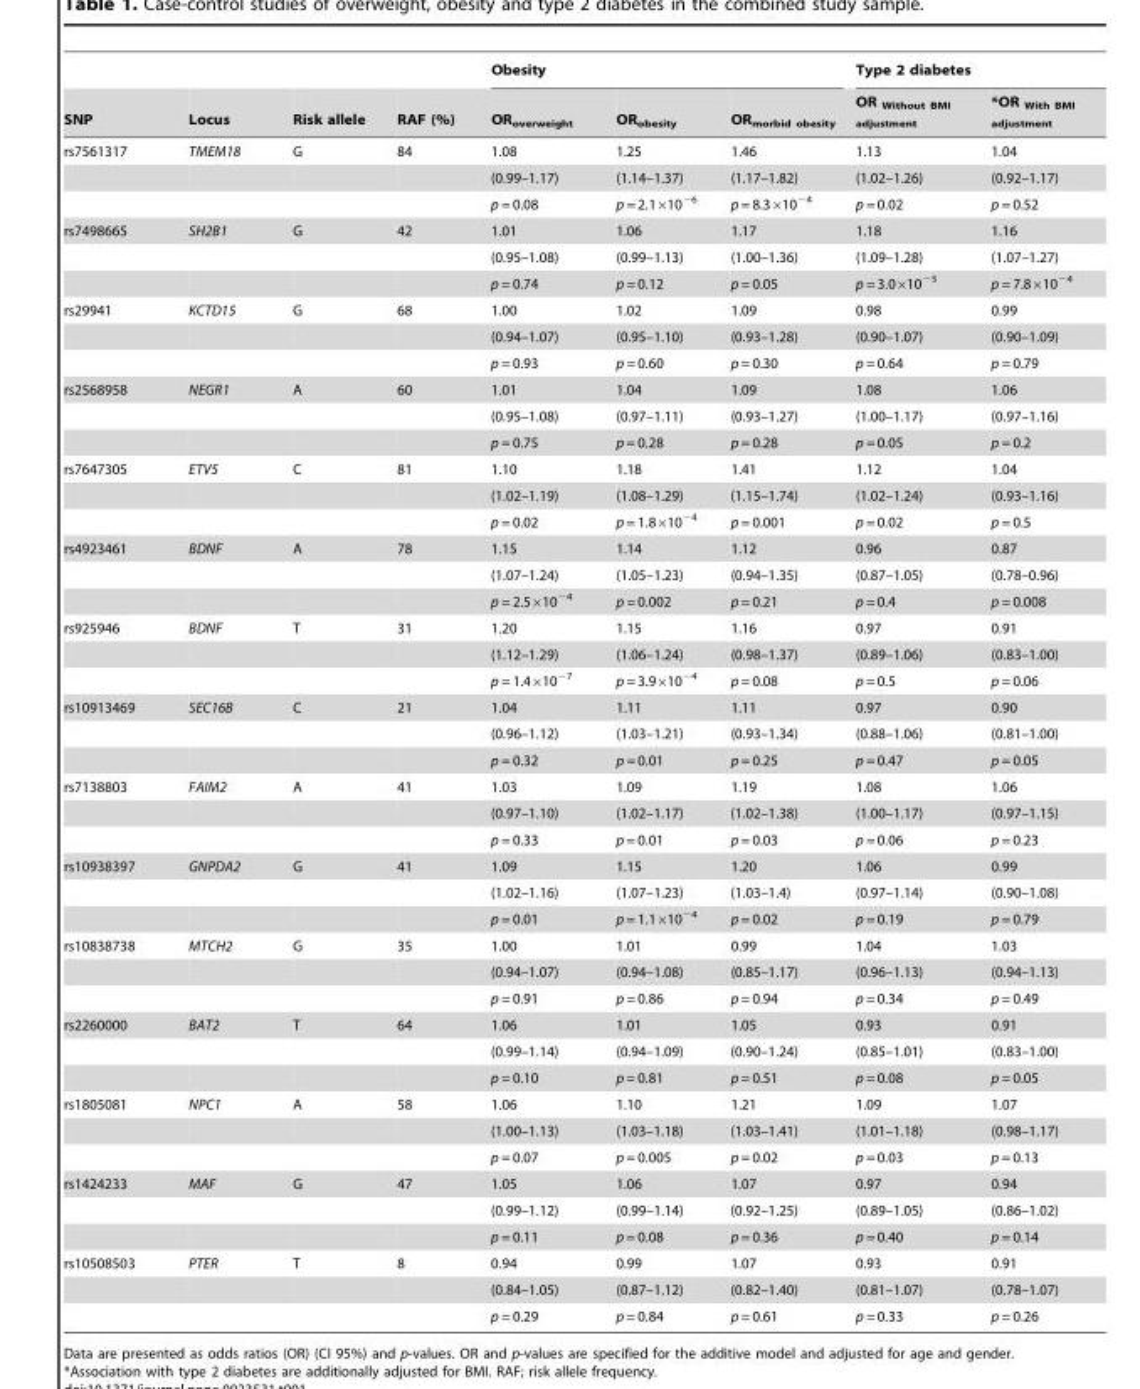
<table><thead><tr><td rowspan="2">SNP</td><td rowspan="2">Locus</td><td rowspan="2">Risk allele</td><td rowspan="2">RAF (%)</td><td colspan="3">Obesity</td><td colspan="2">Type 2 diabetes</td></tr><tr><td>OR<sub>overweight</sub></td><td>OR<sub>obesity</sub></td><td>OR<sub>morbid obesity</sub></td><td>OR <sub>Without BMI adjustment</sub></td><td>*OR <sub>With BMI adjustment</sub></td></tr></thead><tbody><tr><td rowspan="3">rs7561317</td><td>TMEM18</td><td>G</td><td>84</td><td>1.08</td><td>1.25</td><td>1.46</td><td>1.13</td><td>1.04</td></tr><tr><td></td><td></td><td></td><td>(0.99–1.17)</td><td>(1.14–1.37)</td><td>(1.17–1.82)</td><td>(1.02–1.26)</td><td>(0.92–1.17)</td></tr><tr><td></td><td></td><td></td><td>p = 0.08</td><td>p = 2.1×10<sup>−6</sup></td><td>p = 8.3×10<sup>−4</sup></td><td>p = 0.02</td><td>p = 0.52</td></tr><tr><td rowspan="3">rs7498665</td><td>SH2B1</td><td>G</td><td>42</td><td>1.01</td><td>1.06</td><td>1.17</td><td>1.18</td><td>1.16</td></tr><tr><td></td><td></td><td></td><td>(0.95–1.08)</td><td>(0.99–1.13)</td><td>(1.00–1.36)</td><td>(1.09–1.28)</td><td>(1.07–1.27)</td></tr><tr><td></td><td></td><td></td><td>p = 0.74</td><td>p = 0.12</td><td>p = 0.05</td><td>p = 3.0×10<sup>−5</sup></td><td>p = 7.8×10<sup>−4</sup></td></tr><tr><td rowspan="3">rs29941</td><td>KCTD15</td><td>G</td><td>68</td><td>1.00</td><td>1.02</td><td>1.09</td><td>0.98</td><td>0.99</td></tr><tr><td></td><td></td><td></td><td>(0.94–1.07)</td><td>(0.95–1.10)</td><td>(0.93–1.28)</td><td>(0.90–1.07)</td><td>(0.90–1.09)</td></tr><tr><td></td><td></td><td></td><td>p = 0.93</td><td>p = 0.60</td><td>p = 0.30</td><td>p = 0.64</td><td>p = 0.79</td></tr><tr><td rowspan="3">rs2568958</td><td>NEGR1</td><td>A</td><td>60</td><td>1.01</td><td>1.04</td><td>1.09</td><td>1.08</td><td>1.06</td></tr><tr><td></td><td></td><td></td><td>(0.95–1.08)</td><td>(0.97–1.11)</td><td>(0.93–1.27)</td><td>(1.00–1.17)</td><td>(0.97–1.16)</td></tr><tr><td></td><td></td><td></td><td>p = 0.75</td><td>p = 0.28</td><td>p = 0.28</td><td>p = 0.05</td><td>p = 0.2</td></tr><tr><td rowspan="3">rs7647305</td><td>ETV5</td><td>C</td><td>81</td><td>1.10</td><td>1.18</td><td>1.41</td><td>1.12</td><td>1.04</td></tr><tr><td></td><td></td><td></td><td>(1.02–1.19)</td><td>(1.08–1.29)</td><td>(1.15–1.74)</td><td>(1.02–1.24)</td><td>(0.93–1.16)</td></tr><tr><td></td><td></td><td></td><td>p = 0.02</td><td>p = 1.8×10<sup>−4</sup></td><td>p = 0.001</td><td>p = 0.02</td><td>p = 0.5</td></tr><tr><td rowspan="3">rs4923461</td><td>BDNF</td><td>A</td><td>78</td><td>1.15</td><td>1.14</td><td>1.12</td><td>0.96</td><td>0.87</td></tr><tr><td></td><td></td><td></td><td>(1.07–1.24)</td><td>(1.05–1.23)</td><td>(0.94–1.35)</td><td>(0.87–1.05)</td><td>(0.78–0.96)</td></tr><tr><td></td><td></td><td></td><td>p = 2.5×10<sup>−4</sup></td><td>p = 0.002</td><td>p = 0.21</td><td>p = 0.4</td><td>p = 0.008</td></tr><tr><td rowspan="3">rs925946</td><td>BDNF</td><td>T</td><td>31</td><td>1.20</td><td>1.15</td><td>1.16</td><td>0.97</td><td>0.91</td></tr><tr><td></td><td></td><td></td><td>(1.12–1.29)</td><td>(1.06–1.24)</td><td>(0.98–1.37)</td><td>(0.89–1.06)</td><td>(0.83–1.00)</td></tr><tr><td></td><td></td><td></td><td>p = 1.4×10<sup>−7</sup></td><td>p = 3.9×10<sup>−4</sup></td><td>p = 0.08</td><td>p = 0.5</td><td>p = 0.06</td></tr><tr><td rowspan="3">rs10913469</td><td>SEC16B</td><td>C</td><td>21</td><td>1.04</td><td>1.11</td><td>1.11</td><td>0.97</td><td>0.90</td></tr><tr><td></td><td></td><td></td><td>(0.96–1.12)</td><td>(1.03–1.21)</td><td>(0.93–1.34)</td><td>(0.88–1.06)</td><td>(0.81–1.00)</td></tr><tr><td></td><td></td><td></td><td>p = 0.32</td><td>p = 0.01</td><td>p = 0.25</td><td>p = 0.47</td><td>p = 0.05</td></tr><tr><td rowspan="3">rs7138803</td><td>FAIM2</td><td>A</td><td>41</td><td>1.03</td><td>1.09</td><td>1.19</td><td>1.08</td><td>1.06</td></tr><tr><td></td><td></td><td></td><td>(0.97–1.10)</td><td>(1.02–1.17)</td><td>(1.02–1.38)</td><td>(1.00–1.17)</td><td>(0.97–1.15)</td></tr><tr><td></td><td></td><td></td><td>p = 0.33</td><td>p = 0.01</td><td>p = 0.03</td><td>p = 0.06</td><td>p = 0.23</td></tr><tr><td rowspan="3">rs10938397</td><td>GNPDA2</td><td>G</td><td>41</td><td>1.09</td><td>1.15</td><td>1.20</td><td>1.06</td><td>0.99</td></tr><tr><td></td><td></td><td></td><td>(1.02–1.16)</td><td>(1.07–1.23)</td><td>(1.03–1.4)</td><td>(0.97–1.14)</td><td>(0.90–1.08)</td></tr><tr><td></td><td></td><td></td><td>p = 0.01</td><td>p = 1.1×10<sup>−4</sup></td><td>p = 0.02</td><td>p = 0.19</td><td>p = 0.79</td></tr><tr><td rowspan="3">rs10838738</td><td>MTCH2</td><td>G</td><td>35</td><td>1.00</td><td>1.01</td><td>0.99</td><td>1.04</td><td>1.03</td></tr><tr><td></td><td></td><td></td><td>(0.94–1.07)</td><td>(0.94–1.08)</td><td>(0.85–1.17)</td><td>(0.96–1.13)</td><td>(0.94–1.13)</td></tr><tr><td></td><td></td><td></td><td>p = 0.91</td><td>p = 0.86</td><td>p = 0.94</td><td>p = 0.34</td><td>p = 0.49</td></tr><tr><td rowspan="3">rs2260000</td><td>BAT2</td><td>T</td><td>64</td><td>1.06</td><td>1.01</td><td>1.05</td><td>0.93</td><td>0.91</td></tr><tr><td></td><td></td><td></td><td>(0.99–1.14)</td><td>(0.94–1.09)</td><td>(0.90–1.24)</td><td>(0.85–1.01)</td><td>(0.83–1.00)</td></tr><tr><td></td><td></td><td></td><td>p = 0.10</td><td>p = 0.81</td><td>p = 0.51</td><td>p = 0.08</td><td>p = 0.05</td></tr><tr><td rowspan="3">rs1805081</td><td>NPC1</td><td>A</td><td>58</td><td>1.06</td><td>1.10</td><td>1.21</td><td>1.09</td><td>1.07</td></tr><tr><td></td><td></td><td></td><td>(1.00–1.13)</td><td>(1.03–1.18)</td><td>(1.03–1.41)</td><td>(1.01–1.18)</td><td>(0.98–1.17)</td></tr><tr><td></td><td></td><td></td><td>p = 0.07</td><td>p = 0.005</td><td>p = 0.02</td><td>p = 0.03</td><td>p = 0.13</td></tr><tr><td rowspan="3">rs1424233</td><td>MAF</td><td>G</td><td>47</td><td>1.05</td><td>1.06</td><td>1.07</td><td>0.97</td><td>0.94</td></tr><tr><td></td><td></td><td></td><td>(0.99–1.12)</td><td>(0.99–1.14)</td><td>(0.92–1.25)</td><td>(0.89–1.05)</td><td>(0.86–1.02)</td></tr><tr><td></td><td></td><td></td><td>p = 0.11</td><td>p = 0.08</td><td>p = 0.36</td><td>p = 0.40</td><td>p = 0.14</td></tr><tr><td rowspan="3">rs10508503</td><td>PTER</td><td>T</td><td>8</td><td>0.94</td><td>0.99</td><td>1.07</td><td>0.93</td><td>0.91</td></tr><tr><td></td><td></td><td></td><td>(0.84–1.05)</td><td>(0.87–1.12)</td><td>(0.82–1.40)</td><td>(0.81–1.07)</td><td>(0.78–1.07)</td></tr><tr><td></td><td></td><td></td><td>p = 0.29</td><td>p = 0.84</td><td>p = 0.61</td><td>p = 0.33</td><td>p = 0.26</td></tr></tbody></table>